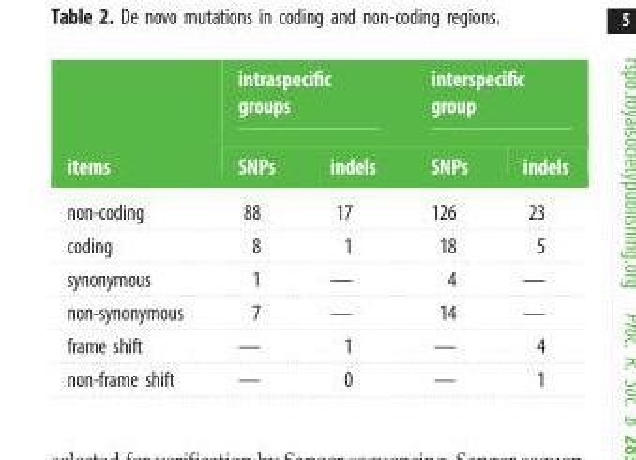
<table><thead><tr><td rowspan="2">items</td><td colspan="2">intraspecific groups</td><td colspan="2">interspecific group</td></tr><tr><td>SNPs</td><td>indels</td><td>SNPs</td><td>indels</td></tr></thead><tbody><tr><td>non-coding</td><td>88</td><td>17</td><td>126</td><td>23</td></tr><tr><td>coding</td><td>8</td><td>1</td><td>18</td><td>5</td></tr><tr><td>synonymous</td><td>1</td><td>—</td><td>4</td><td>—</td></tr><tr><td>non-synonymous</td><td>7</td><td>—</td><td>14</td><td>—</td></tr><tr><td>frame shift</td><td>—</td><td>1</td><td>—</td><td>4</td></tr><tr><td>non-frame shift</td><td>—</td><td>0</td><td>—</td><td>1</td></tr></tbody></table>